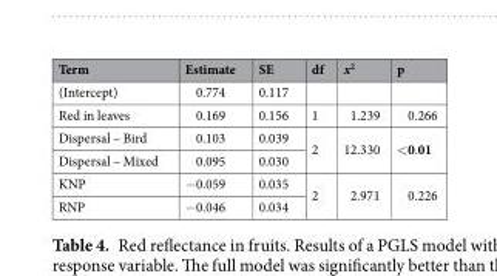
<table><thead><tr><td>Term</td><td>Estimate</td><td>SE</td><td>df</td><td>x<sup>2</sup></td><td>p</td></tr></thead><tbody><tr><td>(Intercept)</td><td>0.774</td><td>0.117</td><td></td><td></td><td></td></tr><tr><td>Red in leaves</td><td>0.169</td><td>0.156</td><td>1</td><td>1.239</td><td>0.266</td></tr><tr><td>Dispersal – Bird</td><td>0.103</td><td>0.039</td><td rowspan="2">2</td><td rowspan="2">12.330</td><td rowspan="2">&lt;0.01</td></tr><tr><td>Dispersal – Mixed</td><td>0.095</td><td>0.030</td></tr><tr><td>KNP</td><td>−0.059</td><td>0.035</td><td rowspan="2">2</td><td rowspan="2">2.971</td><td rowspan="2">0.226</td></tr><tr><td>RNP</td><td>−0.046</td><td>0.034</td></tr></tbody></table>